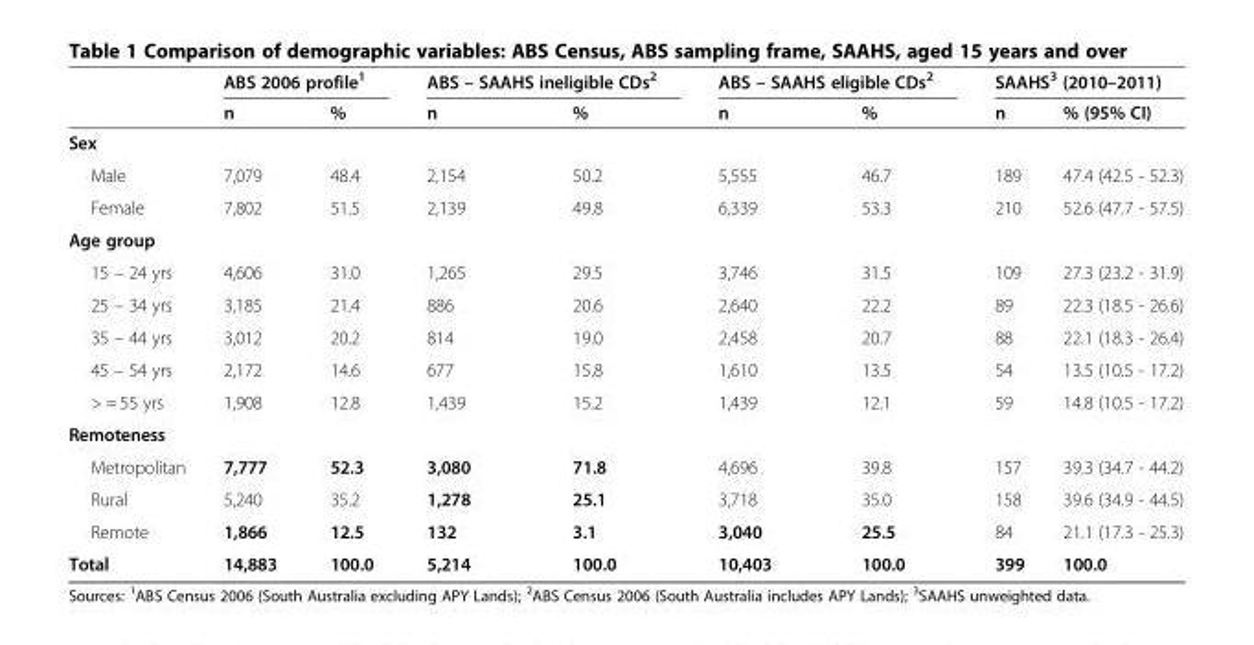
<table><thead><tr><td rowspan="2"></td><td colspan="2">ABS 2006 profile<sup>1</sup></td><td colspan="2">ABS – SAAHS ineligible CDs<sup>2</sup></td><td colspan="2">ABS – SAAHS eligible CDs<sup>2</sup></td><td colspan="2">SAAHS<sup>3</sup> (2010–2011)</td></tr><tr><td>n</td><td>%</td><td>n</td><td>%</td><td>n</td><td>%</td><td>n</td><td>% (95% CI)</td></tr></thead><tbody><tr><td colspan="9">Sex</td></tr><tr><td>Male</td><td>7,079</td><td>48.4</td><td>2,154</td><td>50.2</td><td>5,555</td><td>46.7</td><td>189</td><td>47.4 (42.5 - 52.3)</td></tr><tr><td>Female</td><td>7,802</td><td>51.5</td><td>2,139</td><td>49.8</td><td>6,339</td><td>53.3</td><td>210</td><td>52.6 (47.7 - 57.5)</td></tr><tr><td colspan="9">Age group</td></tr><tr><td>15 – 24 yrs</td><td>4,606</td><td>31.0</td><td>1,265</td><td>29.5</td><td>3,746</td><td>31.5</td><td>109</td><td>27.3 (23.2 - 31.9)</td></tr><tr><td>25 – 34 yrs</td><td>3,185</td><td>21.4</td><td>886</td><td>20.6</td><td>2,640</td><td>22.2</td><td>89</td><td>22.3 (18.5 - 26.6)</td></tr><tr><td>35 – 44 yrs</td><td>3,012</td><td>20.2</td><td>814</td><td>19.0</td><td>2,458</td><td>20.7</td><td>88</td><td>22.1 (18.3 - 26.4)</td></tr><tr><td>45 – 54 yrs</td><td>2,172</td><td>14.6</td><td>677</td><td>15.8</td><td>1,610</td><td>13.5</td><td>54</td><td>13.5 (10.5 - 17.2)</td></tr><tr><td>&gt; = 55 yrs</td><td>1,908</td><td>12.8</td><td>1,439</td><td>15.2</td><td>1,439</td><td>12.1</td><td>59</td><td>14.8 (10.5 - 17.2)</td></tr><tr><td colspan="9">Remoteness</td></tr><tr><td>Metropolitan</td><td>7,777</td><td>52.3</td><td>3,080</td><td>71.8</td><td>4,696</td><td>39.8</td><td>157</td><td>39.3 (34.7 - 44.2)</td></tr><tr><td>Rural</td><td>5,240</td><td>35.2</td><td>1,278</td><td>25.1</td><td>3,718</td><td>35.0</td><td>158</td><td>39.6 (34.9 - 44.5)</td></tr><tr><td>Remote</td><td>1,866</td><td>12.5</td><td>132</td><td>3.1</td><td>3,040</td><td>25.5</td><td>84</td><td>21.1 (17.3 - 25.3)</td></tr><tr><td>Total</td><td>14,883</td><td>100.0</td><td>5,214</td><td>100.0</td><td>10,403</td><td>100.0</td><td>399</td><td>100.0</td></tr></tbody></table>